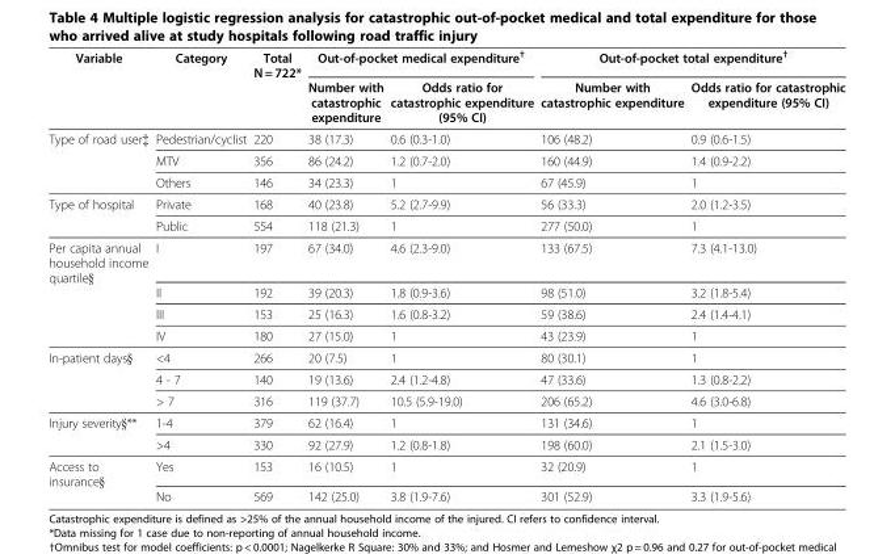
<table><thead><tr><td rowspan="2">Variable</td><td rowspan="2">Category</td><td rowspan="2">Total N = 722*</td><td colspan="2">Out-of-pocket medical expenditure<sup>†</sup></td><td colspan="2">Out-of-pocket total expenditure<sup>†</sup></td></tr><tr><td>Number with catastrophic expenditure</td><td>Odds ratio for catastrophic expenditure (95% CI)</td><td>Number with catastrophic expenditure</td><td>Odds ratio for catastrophic expenditure (95% CI)</td></tr></thead><tbody><tr><td rowspan="3">Type of road user‡</td><td>Pedestrian/cyclist</td><td>220</td><td>38 (17.3)</td><td>0.6 (0.3-1.0)</td><td>106 (48.2)</td><td>0.9 (0.6-1.5)</td></tr><tr><td>MTV</td><td>356</td><td>86 (24.2)</td><td>1.2 (0.7-2.0)</td><td>160 (44.9)</td><td>1.4 (0.9-2.2)</td></tr><tr><td>Others</td><td>146</td><td>34 (23.3)</td><td>1</td><td>67 (45.9)</td><td>1</td></tr><tr><td rowspan="2">Type of hospital</td><td>Private</td><td>168</td><td>40 (23.8)</td><td>5.2 (2.7-9.9)</td><td>56 (33.3)</td><td>2.0 (1.2-3.5)</td></tr><tr><td>Public</td><td>554</td><td>118 (21.3)</td><td>1</td><td>277 (50.0)</td><td>1</td></tr><tr><td rowspan="4">Per capita annual household income quartile§</td><td>I</td><td>197</td><td>67 (34.0)</td><td>4.6 (2.3-9.0)</td><td>133 (67.5)</td><td>7.3 (4.1-13.0)</td></tr><tr><td>II</td><td>192</td><td>39 (20.3)</td><td>1.8 (0.9-3.6)</td><td>98 (51.0)</td><td>3.2 (1.8-5.4)</td></tr><tr><td>III</td><td>153</td><td>25 (16.3)</td><td>1.6 (0.8-3.2)</td><td>59 (38.6)</td><td>2.4 (1.4-4.1)</td></tr><tr><td>IV</td><td>180</td><td>27 (15.0)</td><td>1</td><td>43 (23.9)</td><td>1</td></tr><tr><td rowspan="3">In-patient days§</td><td>&lt;4</td><td>266</td><td>20 (7.5)</td><td>1</td><td>80 (30.1)</td><td>1</td></tr><tr><td>4 - 7</td><td>140</td><td>19 (13.6)</td><td>2.4 (1.2-4.8)</td><td>47 (33.6)</td><td>1.3 (0.8-2.2)</td></tr><tr><td>&gt; 7</td><td>316</td><td>119 (37.7)</td><td>10.5 (5.9-19.0)</td><td>206 (65.2)</td><td>4.6 (3.0-6.8)</td></tr><tr><td rowspan="2">Injury severity§**</td><td>1-4</td><td>379</td><td>62 (16.4)</td><td>1</td><td>131 (34.6)</td><td>1</td></tr><tr><td>&gt;4</td><td>330</td><td>92 (27.9)</td><td>1.2 (0.8-1.8)</td><td>198 (60.0)</td><td>2.1 (1.5-3.0)</td></tr><tr><td rowspan="2">Access to insurance§</td><td>Yes</td><td>153</td><td>16 (10.5)</td><td>1</td><td>32 (20.9)</td><td>1</td></tr><tr><td>No</td><td>569</td><td>142 (25.0)</td><td>3.8 (1.9-7.6)</td><td>301 (52.9)</td><td>3.3 (1.9-5.6)</td></tr></tbody></table>